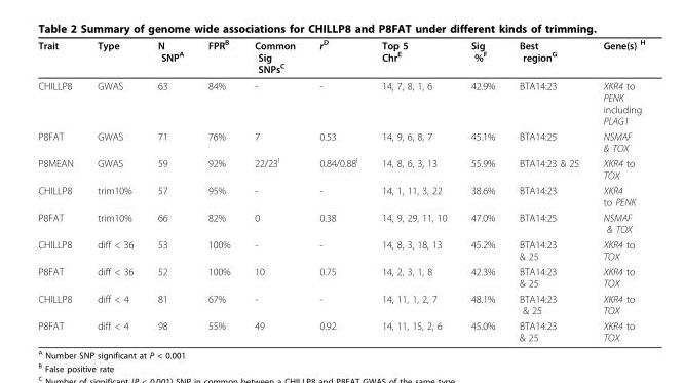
<table><thead><tr><td>Trait</td><td>Type</td><td>N SNP<sup>A</sup></td><td>FPR<sup>B</sup></td><td>Common Sig SNPs<sup>C</sup></td><td>r<sup>D</sup></td><td>Top 5 Chr<sup>E</sup></td><td>Sig %<sup>F</sup></td><td>Best region<sup>G</sup></td><td>Gene(s) <sup>H</sup></td></tr></thead><tbody><tr><td>CHILLP8</td><td>GWAS</td><td>63</td><td>84%</td><td>-</td><td>-</td><td>14, 7, 8, 1, 6</td><td>42.9%</td><td>BTA14:23</td><td>XKR4 to PENK including PLAG1</td></tr><tr><td>P8FAT</td><td>GWAS</td><td>71</td><td>76%</td><td>7</td><td>0.53</td><td>14, 9, 6, 8, 7</td><td>45.1%</td><td>BTA14:25</td><td>NSMAF &amp; TOX</td></tr><tr><td>P8MEAN</td><td>GWAS</td><td>59</td><td>92%</td><td>22/23<sup>I</sup></td><td>0.84/0.88<sup>I</sup></td><td>14, 8, 6, 3, 13</td><td>55.9%</td><td>BTA14:23 &amp; 25</td><td>XKR4 to TOX</td></tr><tr><td>CHILLP8</td><td>trim10%</td><td>57</td><td>95%</td><td>-</td><td>-</td><td>14, 1, 11, 3, 22</td><td>38.6%</td><td>BTA14:23</td><td>XKR4 to PENK</td></tr><tr><td>P8FAT</td><td>trim10%</td><td>66</td><td>82%</td><td>0</td><td>0.38</td><td>14, 9, 29, 11, 10</td><td>47.0%</td><td>BTA14:25</td><td>NSMAF &amp; TOX</td></tr><tr><td>CHILLP8</td><td>diff &lt; 36</td><td>53</td><td>100%</td><td>-</td><td>-</td><td>14, 8, 3, 18, 13</td><td>45.2%</td><td>BTA14:23 &amp; 25</td><td>XKR4 to TOX</td></tr><tr><td>P8FAT</td><td>diff &lt; 36</td><td>52</td><td>100%</td><td>10</td><td>0.75</td><td>14, 2, 3, 1, 8</td><td>42.3%</td><td>BTA14:23 &amp; 25</td><td>XKR4 to TOX</td></tr><tr><td>CHILLP8</td><td>diff &lt; 4</td><td>81</td><td>67%</td><td>-</td><td>-</td><td>14, 11, 1, 2, 7</td><td>48.1%</td><td>BTA14:23 &amp; 25</td><td>XKR4 to TOX</td></tr><tr><td>P8FAT</td><td>diff &lt; 4</td><td>98</td><td>55%</td><td>49</td><td>0.92</td><td>14, 11, 15, 2, 6</td><td>45.0%</td><td>BTA14:23 &amp; 25</td><td>XKR4 to TOX</td></tr></tbody></table>